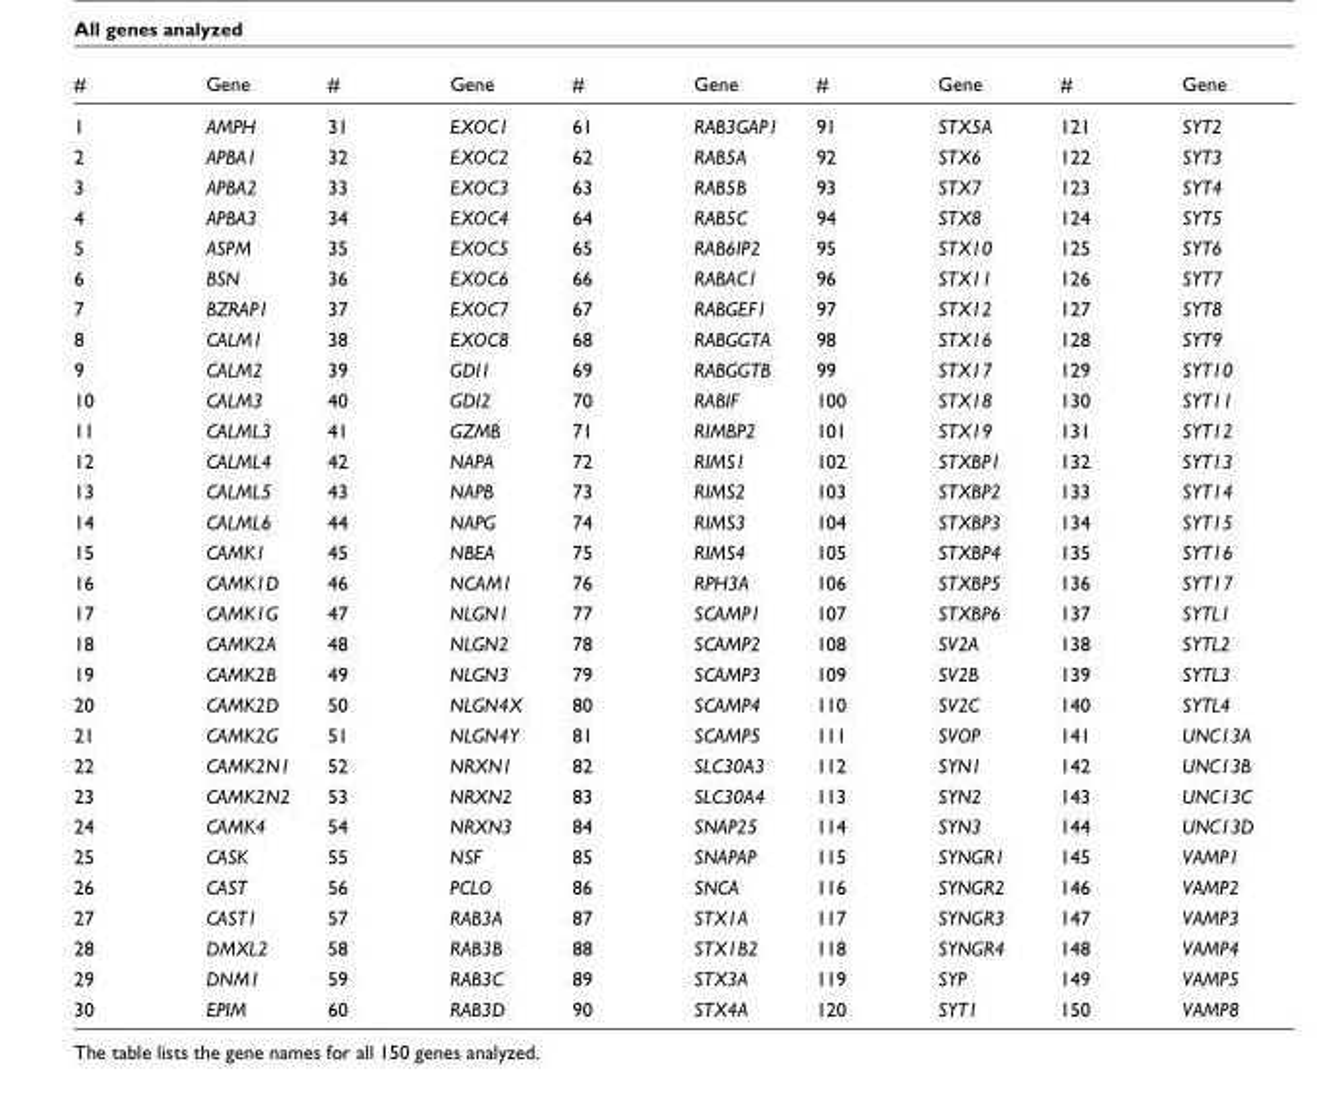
<table><thead><tr><td>#</td><td>Gene</td><td>#</td><td>Gene</td><td>#</td><td>Gene</td><td>#</td><td>Gene</td><td>#</td><td>Gene</td></tr></thead><tbody><tr><td>1</td><td>AMPH</td><td>31</td><td>EXOC1</td><td>61</td><td>RAB3GAP1</td><td>91</td><td>STX5A</td><td>121</td><td>SYT2</td></tr><tr><td>2</td><td>APBA1</td><td>32</td><td>EXOC2</td><td>62</td><td>RAB5A</td><td>92</td><td>STX6</td><td>122</td><td>SYT3</td></tr><tr><td>3</td><td>APBA2</td><td>33</td><td>EXOC3</td><td>63</td><td>RAB5B</td><td>93</td><td>STX7</td><td>123</td><td>SYT4</td></tr><tr><td>4</td><td>APBA3</td><td>34</td><td>EXOC4</td><td>64</td><td>RAB5C</td><td>94</td><td>STX8</td><td>124</td><td>SYT5</td></tr><tr><td>5</td><td>ASPM</td><td>35</td><td>EXOC5</td><td>65</td><td>RAB6IP2</td><td>95</td><td>STX10</td><td>125</td><td>SYT6</td></tr><tr><td>6</td><td>BSN</td><td>36</td><td>EXOC6</td><td>66</td><td>RABAC1</td><td>96</td><td>STX11</td><td>126</td><td>SYT7</td></tr><tr><td>7</td><td>BZRAP1</td><td>37</td><td>EXOC7</td><td>67</td><td>RABGEF1</td><td>97</td><td>STX12</td><td>127</td><td>SYT8</td></tr><tr><td>8</td><td>CALM1</td><td>38</td><td>EXOC8</td><td>68</td><td>RABGGTA</td><td>98</td><td>STX16</td><td>128</td><td>SYT9</td></tr><tr><td>9</td><td>CALM2</td><td>39</td><td>GDI1</td><td>69</td><td>RABGGTB</td><td>99</td><td>STX17</td><td>129</td><td>SYT10</td></tr><tr><td>10</td><td>CALM3</td><td>40</td><td>GDI2</td><td>70</td><td>RABIF</td><td>100</td><td>STX18</td><td>130</td><td>SYT11</td></tr><tr><td>11</td><td>CALML3</td><td>41</td><td>GZMB</td><td>71</td><td>RIMBP2</td><td>101</td><td>STX19</td><td>131</td><td>SYT12</td></tr><tr><td>12</td><td>CALML4</td><td>42</td><td>NAPA</td><td>72</td><td>RIMS1</td><td>102</td><td>STXBP1</td><td>132</td><td>SYT13</td></tr><tr><td>13</td><td>CALML5</td><td>43</td><td>NAPB</td><td>73</td><td>RIMS2</td><td>103</td><td>STXBP2</td><td>133</td><td>SYT14</td></tr><tr><td>14</td><td>CALML6</td><td>44</td><td>NAPG</td><td>74</td><td>RIMS3</td><td>104</td><td>STXBP3</td><td>134</td><td>SYT15</td></tr><tr><td>15</td><td>CAMK1</td><td>45</td><td>NBEA</td><td>75</td><td>RIMS4</td><td>105</td><td>STXBP4</td><td>135</td><td>SYT16</td></tr><tr><td>16</td><td>CAMK1D</td><td>46</td><td>NCAM1</td><td>76</td><td>RPH3A</td><td>106</td><td>STXBP5</td><td>136</td><td>SYT17</td></tr><tr><td>17</td><td>CAMK1G</td><td>47</td><td>NLGN1</td><td>77</td><td>SCAMP1</td><td>107</td><td>STXBP6</td><td>137</td><td>SYTL1</td></tr><tr><td>18</td><td>CAMK2A</td><td>48</td><td>NLGN2</td><td>78</td><td>SCAMP2</td><td>108</td><td>SV2A</td><td>138</td><td>SYTL2</td></tr><tr><td>19</td><td>CAMK2B</td><td>49</td><td>NLGN3</td><td>79</td><td>SCAMP3</td><td>109</td><td>SV2B</td><td>139</td><td>SYTL3</td></tr><tr><td>20</td><td>CAMK2D</td><td>50</td><td>NLGN4X</td><td>80</td><td>SCAMP4</td><td>110</td><td>SV2C</td><td>140</td><td>SYTL4</td></tr><tr><td>21</td><td>CAMK2G</td><td>51</td><td>NLGN4Y</td><td>81</td><td>SCAMP5</td><td>111</td><td>SVOP</td><td>141</td><td>UNC13A</td></tr><tr><td>22</td><td>CAMK2N1</td><td>52</td><td>NRXN1</td><td>82</td><td>SLC30A3</td><td>112</td><td>SYN1</td><td>142</td><td>UNC13B</td></tr><tr><td>23</td><td>CAMK2N2</td><td>53</td><td>NRXN2</td><td>83</td><td>SLC30A4</td><td>113</td><td>SYN2</td><td>143</td><td>UNC13C</td></tr><tr><td>24</td><td>CAMK4</td><td>54</td><td>NRXN3</td><td>84</td><td>SNAP25</td><td>114</td><td>SYN3</td><td>144</td><td>UNC13D</td></tr><tr><td>25</td><td>CASK</td><td>55</td><td>NSF</td><td>85</td><td>SNAPAP</td><td>115</td><td>SYNGR1</td><td>145</td><td>VAMP1</td></tr><tr><td>26</td><td>CAST</td><td>56</td><td>PCLO</td><td>86</td><td>SNCA</td><td>116</td><td>SYNGR2</td><td>146</td><td>VAMP2</td></tr><tr><td>27</td><td>CAST1</td><td>57</td><td>RAB3A</td><td>87</td><td>STX1A</td><td>117</td><td>SYNGR3</td><td>147</td><td>VAMP3</td></tr><tr><td>28</td><td>DMXL2</td><td>58</td><td>RAB3B</td><td>88</td><td>STX1B2</td><td>118</td><td>SYNGR4</td><td>148</td><td>VAMP4</td></tr><tr><td>29</td><td>DNM1</td><td>59</td><td>RAB3C</td><td>89</td><td>STX3A</td><td>119</td><td>SYP</td><td>149</td><td>VAMP5</td></tr><tr><td>30</td><td>EPIM</td><td>60</td><td>RAB3D</td><td>90</td><td>STX4A</td><td>120</td><td>SYT1</td><td>150</td><td>VAMP8</td></tr></tbody></table>